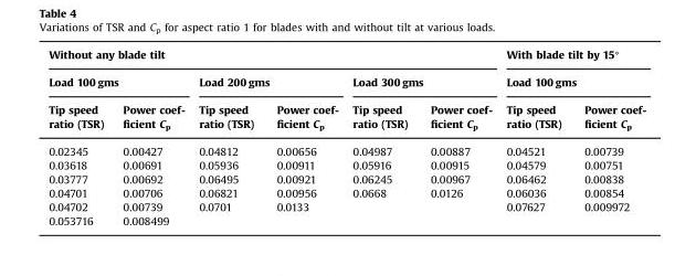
<table><thead><tr><td colspan="6">Without any blade tilt</td><td rowspan="2" colspan="2">With blade tilt by 15° Load 100 gms</td></tr><tr><td colspan="2">Load 100 gms</td><td colspan="2">Load 200 gms</td><td colspan="2">Load 300 gms</td></tr><tr><td>Tip speed ratio (TSR)</td><td>Power coef- ficient Cp</td><td>Tip speed ratio (TSR)</td><td>Power coef- ficient Cp</td><td>Tip speed ratio (TSR)</td><td>Power coef- ficient Cp</td><td>Tip speed ratio (TSR)</td><td>Power coef- ficient Cp</td></tr></thead><tbody><tr><td>0.02345</td><td>0.00427</td><td>0.04812</td><td>0.00656</td><td>0.04987</td><td>0.00887</td><td>0.04521</td><td>0.00739</td></tr><tr><td>0.03618</td><td>0.00691</td><td>0.05936</td><td>0.00911</td><td>0.05916</td><td>0.00915</td><td>0.04579</td><td>0.00751</td></tr><tr><td>0.03777</td><td>0.00692</td><td>0.06495</td><td>0.00921</td><td>0.06245</td><td>0.00967</td><td>0.06462</td><td>0.00838</td></tr><tr><td>0.04701</td><td>0.00706</td><td>0.06821</td><td>0.00956</td><td>0.0668</td><td>0.0126</td><td>0.06036</td><td>0.00854</td></tr><tr><td>0.04702</td><td>0.00739</td><td>0.0701</td><td>0.0133</td><td></td><td></td><td>0.07627</td><td>0.009972</td></tr><tr><td>0.053716</td><td>0.008499</td><td></td><td></td><td></td><td></td><td></td><td></td></tr></tbody></table>